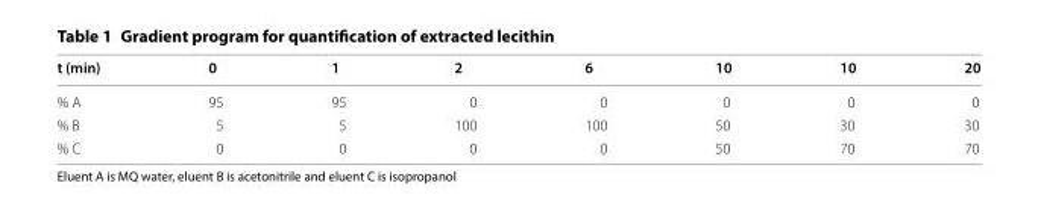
<table><thead><tr><td>t (min)</td><td>0</td><td>1</td><td>2</td><td>6</td><td>10</td><td>10</td><td>20</td></tr></thead><tbody><tr><td>% A</td><td>95</td><td>95</td><td>0</td><td>0</td><td>0</td><td>0</td><td>0</td></tr><tr><td>% B</td><td>5</td><td>5</td><td>100</td><td>100</td><td>50</td><td>30</td><td>30</td></tr><tr><td>% C</td><td>0</td><td>0</td><td>0</td><td>0</td><td>50</td><td>70</td><td>70</td></tr></tbody></table>